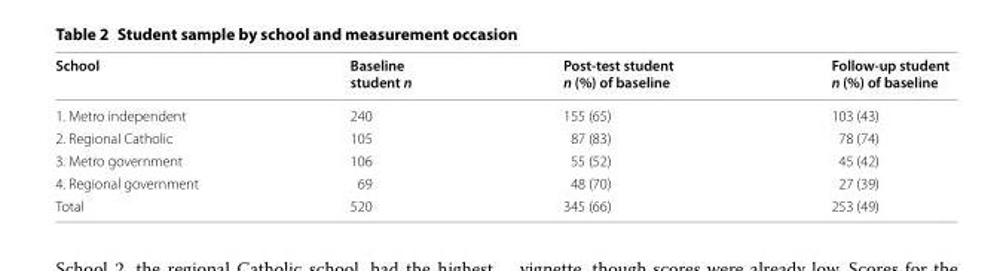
<table><thead><tr><td>School</td><td>Baseline student n</td><td>Post-test student n (%) of baseline</td><td>Follow-up student n (%) of baseline</td></tr></thead><tbody><tr><td>1. Metro independent</td><td>240</td><td>155 (65)</td><td>103 (43)</td></tr><tr><td>2. Regional Catholic</td><td>105</td><td>87 (83)</td><td>78 (74)</td></tr><tr><td>3. Metro government</td><td>106</td><td>55 (52)</td><td>45 (42)</td></tr><tr><td>4. Regional government</td><td>69</td><td>48 (70)</td><td>27 (39)</td></tr><tr><td>Total</td><td>520</td><td>345 (66)</td><td>253 (49)</td></tr></tbody></table>